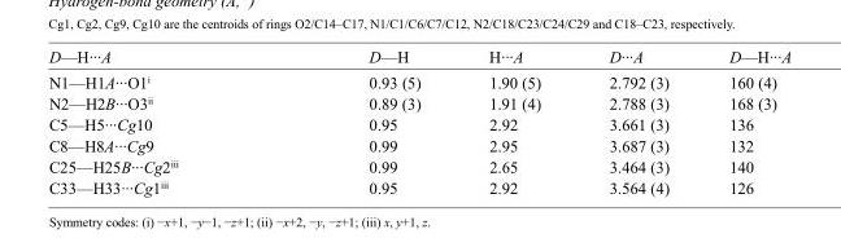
<table><tbody><tr><td>D—H···A</td><td>D—H</td><td>H···A</td><td>D···A</td><td>D—H···A</td></tr><tr><td>N1—H1A···O1<sup>i</sup></td><td>0.93 (5)</td><td>1.90 (5)</td><td>2.792 (3)</td><td>160 (4)</td></tr><tr><td>N2—H2B···O3<sup>ii</sup></td><td>0.89 (3)</td><td>1.91 (4)</td><td>2.788 (3)</td><td>168 (3)</td></tr><tr><td>C5—H5···Cg10</td><td>0.95</td><td>2.92</td><td>3.661 (3)</td><td>136</td></tr><tr><td>C8—H8A···Cg9</td><td>0.99</td><td>2.95</td><td>3.687 (3)</td><td>132</td></tr><tr><td>C25—H25B···Cg2<sup>iii</sup></td><td>0.99</td><td>2.65</td><td>3.464 (3)</td><td>140</td></tr><tr><td>C33—H33···Cg1<sup>iii</sup></td><td>0.95</td><td>2.92</td><td>3.564 (4)</td><td>126</td></tr></tbody></table>